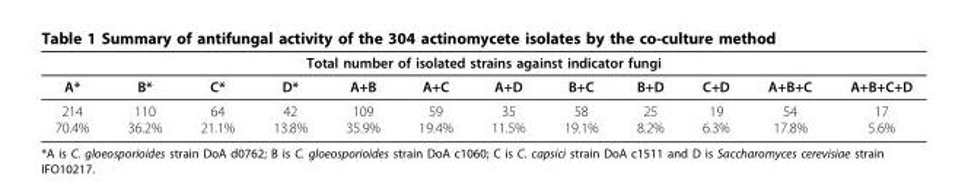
<table><thead><tr><td colspan="12">Total number of isolated strains against indicator fungi</td></tr><tr><td>A*</td><td>B*</td><td>C*</td><td>D*</td><td>A+B</td><td>A+C</td><td>A+D</td><td>B+C</td><td>B+D</td><td>C+D</td><td>A+B+C</td><td>A+B+C+D</td></tr></thead><tbody><tr><td>214 70.4%</td><td>110 36.2%</td><td>64 21.1%</td><td>42 13.8%</td><td>109 35.9%</td><td>59 19.4%</td><td>35 11.5%</td><td>58 19.1%</td><td>25 8.2%</td><td>19 6.3%</td><td>54 17.8%</td><td>17 5.6%</td></tr></tbody></table>